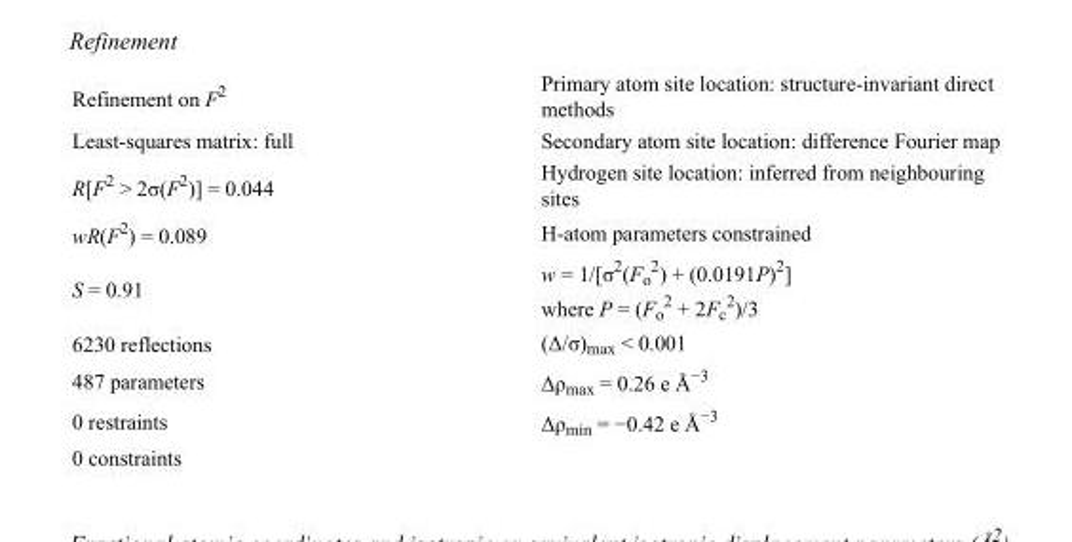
<table><tbody><tr><td>Refinement on F<sup>2</sup></td><td>Primary atom site location: structure-invariant direct methods</td></tr><tr><td>Least-squares matrix: full</td><td>Secondary atom site location: difference Fourier map</td></tr><tr><td>R[F<sup>2</sup> &gt; 2σ(F<sup>2</sup>)] = 0.044</td><td>Hydrogen site location: inferred from neighbouring sites</td></tr><tr><td>wR(F<sup>2</sup>) = 0.089</td><td>H-atom parameters constrained</td></tr><tr><td>S = 0.91</td><td>w = 1/[σ<sup>2</sup>(F<sub>o</sub> <sup>2</sup>) + (0.0191P)<sup>2</sup>] where P = (F<sub>o</sub> <sup>2</sup> + 2F<sub>c</sub> <sup>2</sup>)/3</td></tr><tr><td>6230 reflections</td><td>(Δ/σ)<sub>max</sub> &lt; 0.001</td></tr><tr><td>487 parameters</td><td>Δρ<sub>max</sub> = 0.26 e Å<sup>−3</sup></td></tr><tr><td>0 restraints</td><td>Δρ<sub>min</sub> = −0.42 e Å<sup>−3</sup></td></tr><tr><td>0 constraints</td><td></td></tr></tbody></table>